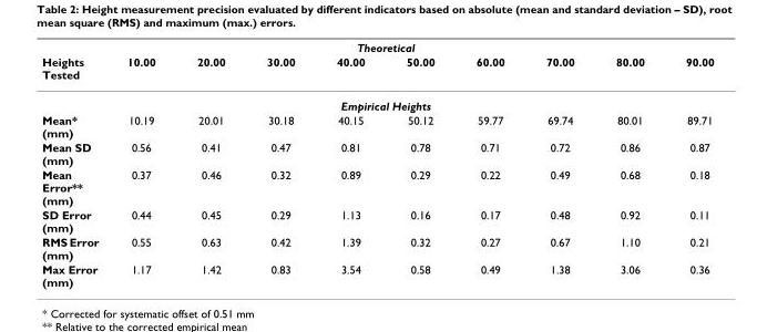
<table><thead><tr><td colspan="10">Theoretical</td></tr><tr><td>Heights Tested</td><td>10.00</td><td>20.00</td><td>30.00</td><td>40.00</td><td>50.00</td><td>60.00</td><td>70.00</td><td>80.00</td><td>90.00</td></tr></thead><tbody><tr><td colspan="10">Empirical Heights</td></tr><tr><td>Mean* (mm)</td><td>10.19</td><td>20.01</td><td>30.18</td><td>40.15</td><td>50.12</td><td>59.77</td><td>69.74</td><td>80.01</td><td>89.71</td></tr><tr><td>Mean SD (mm)</td><td>0.56</td><td>0.41</td><td>0.47</td><td>0.81</td><td>0.78</td><td>0.71</td><td>0.72</td><td>0.86</td><td>0.87</td></tr><tr><td>Mean Error** (mm)</td><td>0.37</td><td>0.46</td><td>0.32</td><td>0.89</td><td>0.29</td><td>0.22</td><td>0.49</td><td>0.68</td><td>0.18</td></tr><tr><td>SD Error (mm)</td><td>0.44</td><td>0.45</td><td>0.29</td><td>1.13</td><td>0.16</td><td>0.17</td><td>0.48</td><td>0.92</td><td>0.11</td></tr><tr><td>RMS Error (mm)</td><td>0.55</td><td>0.63</td><td>0.42</td><td>1.39</td><td>0.32</td><td>0.27</td><td>0.67</td><td>1.10</td><td>0.21</td></tr><tr><td>Max Error (mm)</td><td>1.17</td><td>1.42</td><td>0.83</td><td>3.54</td><td>0.58</td><td>0.49</td><td>1.38</td><td>3.06</td><td>0.36</td></tr></tbody></table>